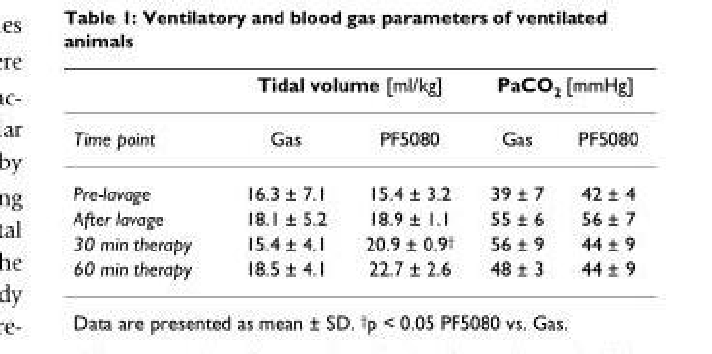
<table><thead><tr><td rowspan="2">Time point</td><td colspan="2">Tidal volume [ml/kg]</td><td colspan="2">PaCO<sub>2</sub> [mmHg]</td></tr><tr><td>Gas</td><td>PF5080</td><td>Gas</td><td>PF5080</td></tr></thead><tbody><tr><td>Pre-lavage</td><td>16.3 ± 7.1</td><td>15.4 ± 3.2</td><td>39 ± 7</td><td>42 ± 4</td></tr><tr><td>After lavage</td><td>18.1 ± 5.2</td><td>18.9 ± 1.1</td><td>55 ± 6</td><td>56 ± 7</td></tr><tr><td>30 min therapy</td><td>15.4 ± 4.1</td><td>20.9 ± 0.9<sup>†</sup></td><td>56 ± 9</td><td>44 ± 9</td></tr><tr><td>60 min therapy</td><td>18.5 ± 4.1</td><td>22.7 ± 2.6</td><td>48 ± 3</td><td>44 ± 9</td></tr></tbody></table>